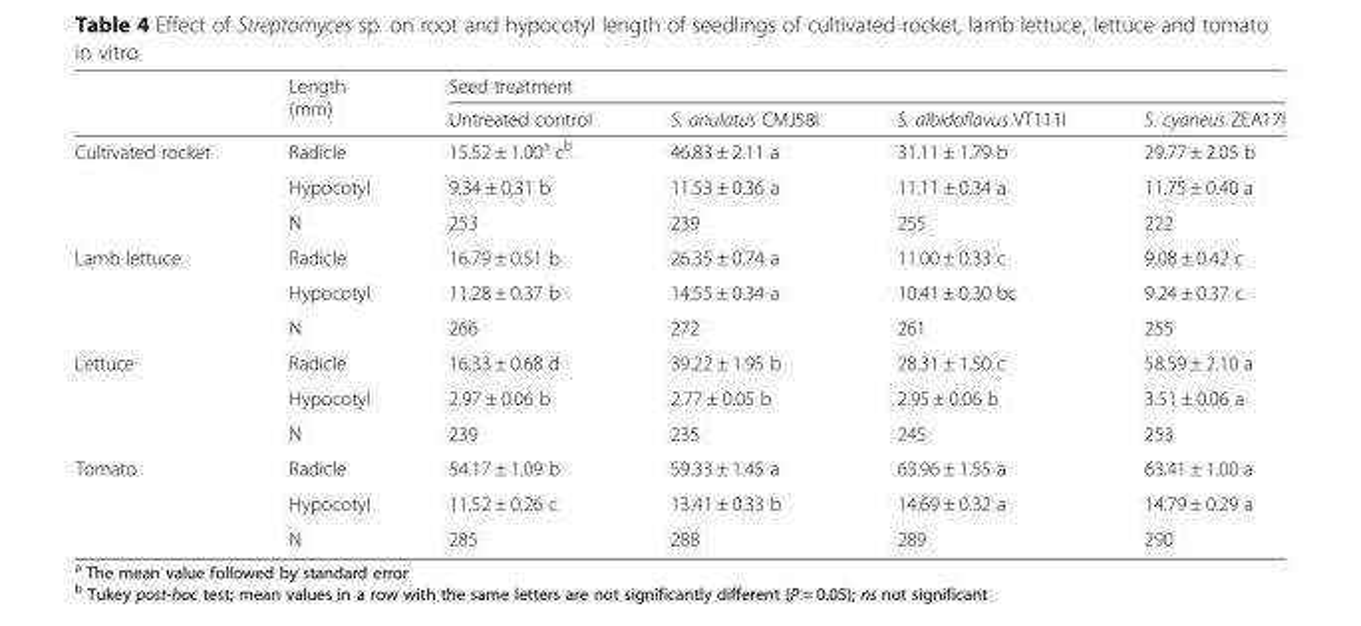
<table><thead><tr><td rowspan="2"></td><td rowspan="2">Length (mm)</td><td colspan="4">Seed treatment</td></tr><tr><td>Untreated control</td><td>S. anulatus CMJ58I</td><td>S. albidoflavus VT111I</td><td>S. cyaneus ZEA17I</td></tr></thead><tbody><tr><td rowspan="3">Cultivated rocket</td><td>Radicle</td><td>15.52 ± 1.00<sup>a</sup> c<sup>b</sup></td><td>46.83 ± 2.11 a</td><td>31.11 ± 1.79 b</td><td>29.77 ± 2.05 b</td></tr><tr><td>Hypocotyl</td><td>9.34 ± 0.31 b</td><td>11.53 ± 0.36 a</td><td>11.11 ± 0.34 a</td><td>11.75 ± 0.40 a</td></tr><tr><td>N</td><td>253</td><td>239</td><td>255</td><td>222</td></tr><tr><td rowspan="3">Lamb lettuce</td><td>Radicle</td><td>16.79 ± 0.51 b</td><td>26.35 ± 0.74 a</td><td>11.00 ± 0.33 c</td><td>9.08 ± 0.42 c</td></tr><tr><td>Hypocotyl</td><td>11.28 ± 0.37 b</td><td>14.55 ± 0.34 a</td><td>10.41 ± 0.30 bc</td><td>9.24 ± 0.37 c</td></tr><tr><td>N</td><td>266</td><td>272</td><td>261</td><td>255</td></tr><tr><td rowspan="3">Lettuce</td><td>Radicle</td><td>16.33 ± 0.68 d</td><td>39.22 ± 1.95 b</td><td>28.31 ± 1.50 c</td><td>58.59 ± 2.10 a</td></tr><tr><td>Hypocotyl</td><td>2.97 ± 0.06 b</td><td>2.77 ± 0.05 b</td><td>2.95 ± 0.06 b</td><td>3.51 ± 0.06 a</td></tr><tr><td>N</td><td>239</td><td>235</td><td>245</td><td>253</td></tr><tr><td rowspan="3">Tomato</td><td>Radicle</td><td>54.17 ± 1.09 b</td><td>59.33 ± 1.45 a</td><td>63.96 ± 1.55 a</td><td>63.41 ± 1.00 a</td></tr><tr><td>Hypocotyl</td><td>11.52 ± 0.26 c</td><td>13.41 ± 0.33 b</td><td>14.69 ± 0.32 a</td><td>14.79 ± 0.29 a</td></tr><tr><td>N</td><td>285</td><td>288</td><td>289</td><td>290</td></tr></tbody></table>